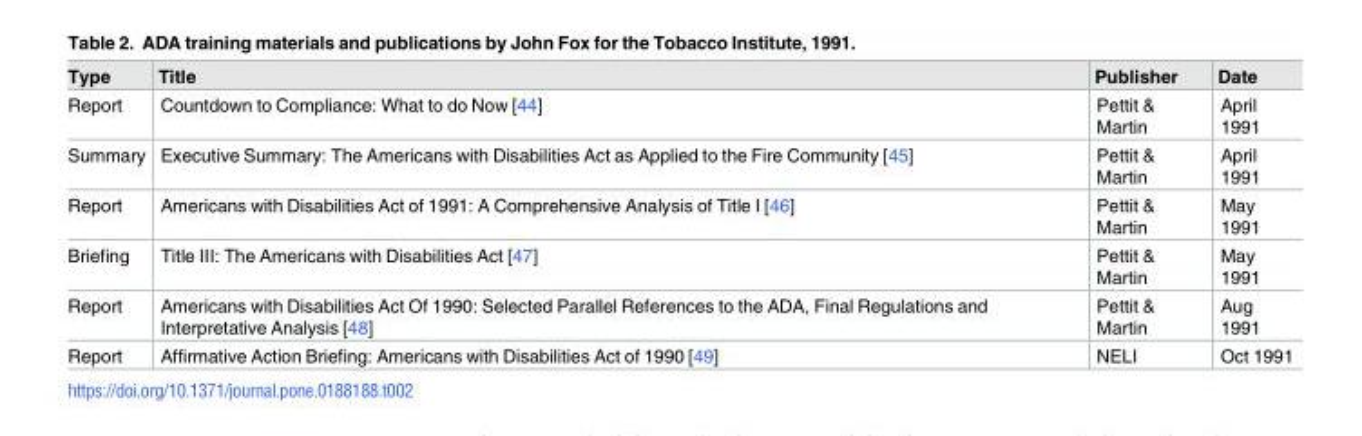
<table><thead><tr><td>Type</td><td>Title</td><td>Publisher</td><td>Date</td></tr></thead><tbody><tr><td>Report</td><td>Countdown to Compliance: What to do Now [44]</td><td>Pettit &amp; Martin</td><td>April 1991</td></tr><tr><td>Summary</td><td>Executive Summary: The Americans with Disabilities Act as Applied to the Fire Community [45]</td><td>Pettit &amp; Martin</td><td>April 1991</td></tr><tr><td>Report</td><td>Americans with Disabilities Act of 1991: A Comprehensive Analysis of Title I [46]</td><td>Pettit &amp; Martin</td><td>May 1991</td></tr><tr><td>Briefing</td><td>Title III: The Americans with Disabilities Act [47]</td><td>Pettit &amp; Martin</td><td>May 1991</td></tr><tr><td>Report</td><td>Americans with Disabilities Act Of 1990: Selected Parallel References to the ADA, Final Regulations and Interpretative Analysis [48]</td><td>Pettit &amp; Martin</td><td>Aug 1991</td></tr><tr><td>Report</td><td>Affirmative Action Briefing: Americans with Disabilities Act of 1990 [49]</td><td>NELI</td><td>Oct 1991</td></tr></tbody></table>